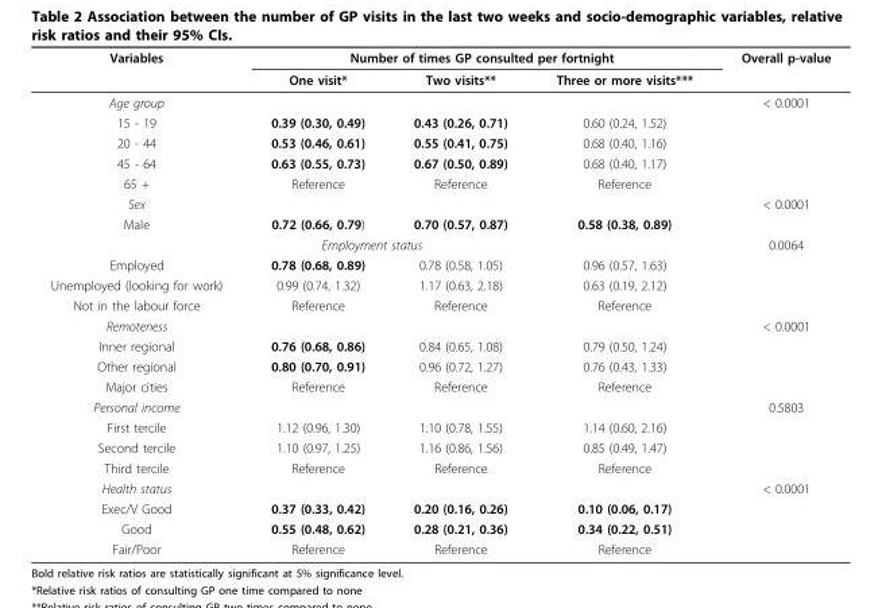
<table><thead><tr><td rowspan="2">Variables</td><td colspan="3">Number of times GP consulted per fortnight</td><td rowspan="2">Overall p-value</td></tr><tr><td>One visit*</td><td>Two visits**</td><td>Three or more visits***</td></tr></thead><tbody><tr><td>Age group</td><td></td><td></td><td></td><td>&lt; 0.0001</td></tr><tr><td>15 - 19</td><td>0.39 (0.30, 0.49)</td><td>0.43 (0.26, 0.71)</td><td>0.60 (0.24, 1.52)</td><td></td></tr><tr><td>20 - 44</td><td>0.53 (0.46, 0.61)</td><td>0.55 (0.41, 0.75)</td><td>0.68 (0.40, 1.16)</td><td></td></tr><tr><td>45 - 64</td><td>0.63 (0.55, 0.73)</td><td>0.67 (0.50, 0.89)</td><td>0.68 (0.40, 1.17)</td><td></td></tr><tr><td>65 +</td><td>Reference</td><td>Reference</td><td>Reference</td><td></td></tr><tr><td>Sex</td><td></td><td></td><td></td><td>&lt; 0.0001</td></tr><tr><td>Male</td><td>0.72 (0.66, 0.79)</td><td>0.70 (0.57, 0.87)</td><td>0.58 (0.38, 0.89)</td><td></td></tr><tr><td colspan="4">Employment status</td><td>0.0064</td></tr><tr><td>Employed</td><td>0.78 (0.68, 0.89)</td><td>0.78 (0.58, 1.05)</td><td>0.96 (0.57, 1.63)</td><td></td></tr><tr><td>Unemployed (looking for work)</td><td>0.99 (0.74, 1.32)</td><td>1.17 (0.63, 2.18)</td><td>0.63 (0.19, 2.12)</td><td></td></tr><tr><td>Not in the labour force</td><td>Reference</td><td>Reference</td><td>Reference</td><td></td></tr><tr><td>Remoteness</td><td></td><td></td><td></td><td>&lt; 0.0001</td></tr><tr><td>Inner regional</td><td>0.76 (0.68, 0.86)</td><td>0.84 (0.65, 1.08)</td><td>0.79 (0.50, 1.24)</td><td></td></tr><tr><td>Other regional</td><td>0.80 (0.70, 0.91)</td><td>0.96 (0.72, 1.27)</td><td>0.76 (0.43, 1.33)</td><td></td></tr><tr><td>Major cities</td><td>Reference</td><td>Reference</td><td>Reference</td><td></td></tr><tr><td>Personal income</td><td></td><td></td><td></td><td>0.5803</td></tr><tr><td>First tercile</td><td>1.12 (0.96, 1.30)</td><td>1.10 (0.78, 1.55)</td><td>1.14 (0.60, 2.16)</td><td></td></tr><tr><td>Second tercile</td><td>1.10 (0.97, 1.25)</td><td>1.16 (0.86, 1.56)</td><td>0.85 (0.49, 1.47)</td><td></td></tr><tr><td>Third tercile</td><td>Reference</td><td>Reference</td><td>Reference</td><td></td></tr><tr><td>Health status</td><td></td><td></td><td></td><td>&lt; 0.0001</td></tr><tr><td>Exec/V Good</td><td>0.37 (0.33, 0.42)</td><td>0.20 (0.16, 0.26)</td><td>0.10 (0.06, 0.17)</td><td></td></tr><tr><td>Good</td><td>0.55 (0.48, 0.62)</td><td>0.28 (0.21, 0.36)</td><td>0.34 (0.22, 0.51)</td><td></td></tr><tr><td>Fair/Poor</td><td>Reference</td><td>Reference</td><td>Reference</td><td></td></tr></tbody></table>